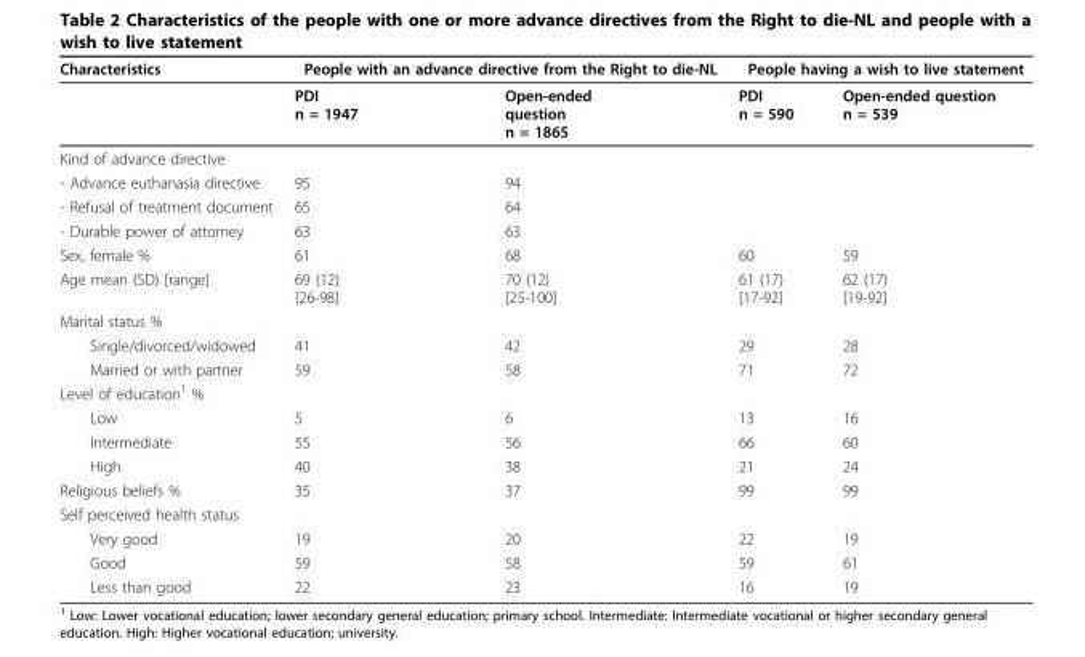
<table><thead><tr><td rowspan="2">Characteristics</td><td colspan="2">People with an advance directive from the Right to die-NL</td><td colspan="2">People having a wish to live statement</td></tr><tr><td>PDI n = 1947</td><td>Open-ended question n = 1865</td><td>PDI n = 590</td><td>Open-ended question n = 539</td></tr></thead><tbody><tr><td colspan="5">Kind of advance directive</td></tr><tr><td>- Advance euthanasia directive</td><td>95</td><td>94</td><td></td><td></td></tr><tr><td>- Refusal of treatment document</td><td>65</td><td>64</td><td></td><td></td></tr><tr><td>- Durable power of attorney</td><td>63</td><td>63</td><td></td><td></td></tr><tr><td>Sex, female %</td><td>61</td><td>68</td><td>60</td><td>59</td></tr><tr><td>Age mean (SD) [range]</td><td>69 (12) [26-98]</td><td>70 (12) [25-100]</td><td>61 (17) [17-92]</td><td>62 (17) [19-92]</td></tr><tr><td colspan="5">Marital status %</td></tr><tr><td>Single/divorced/widowed</td><td>41</td><td>42</td><td>29</td><td>28</td></tr><tr><td>Married or with partner</td><td>59</td><td>58</td><td>71</td><td>72</td></tr><tr><td colspan="5">Level of education<sup>1</sup> %</td></tr><tr><td>Low</td><td>5</td><td>6</td><td>13</td><td>16</td></tr><tr><td>Intermediate</td><td>55</td><td>56</td><td>66</td><td>60</td></tr><tr><td>High</td><td>40</td><td>38</td><td>21</td><td>24</td></tr><tr><td>Religious beliefs %</td><td>35</td><td>37</td><td>99</td><td>99</td></tr><tr><td colspan="5">Self perceived health status</td></tr><tr><td>Very good</td><td>19</td><td>20</td><td>22</td><td>19</td></tr><tr><td>Good</td><td>59</td><td>58</td><td>59</td><td>61</td></tr><tr><td>Less than good</td><td>22</td><td>23</td><td>16</td><td>19</td></tr></tbody></table>